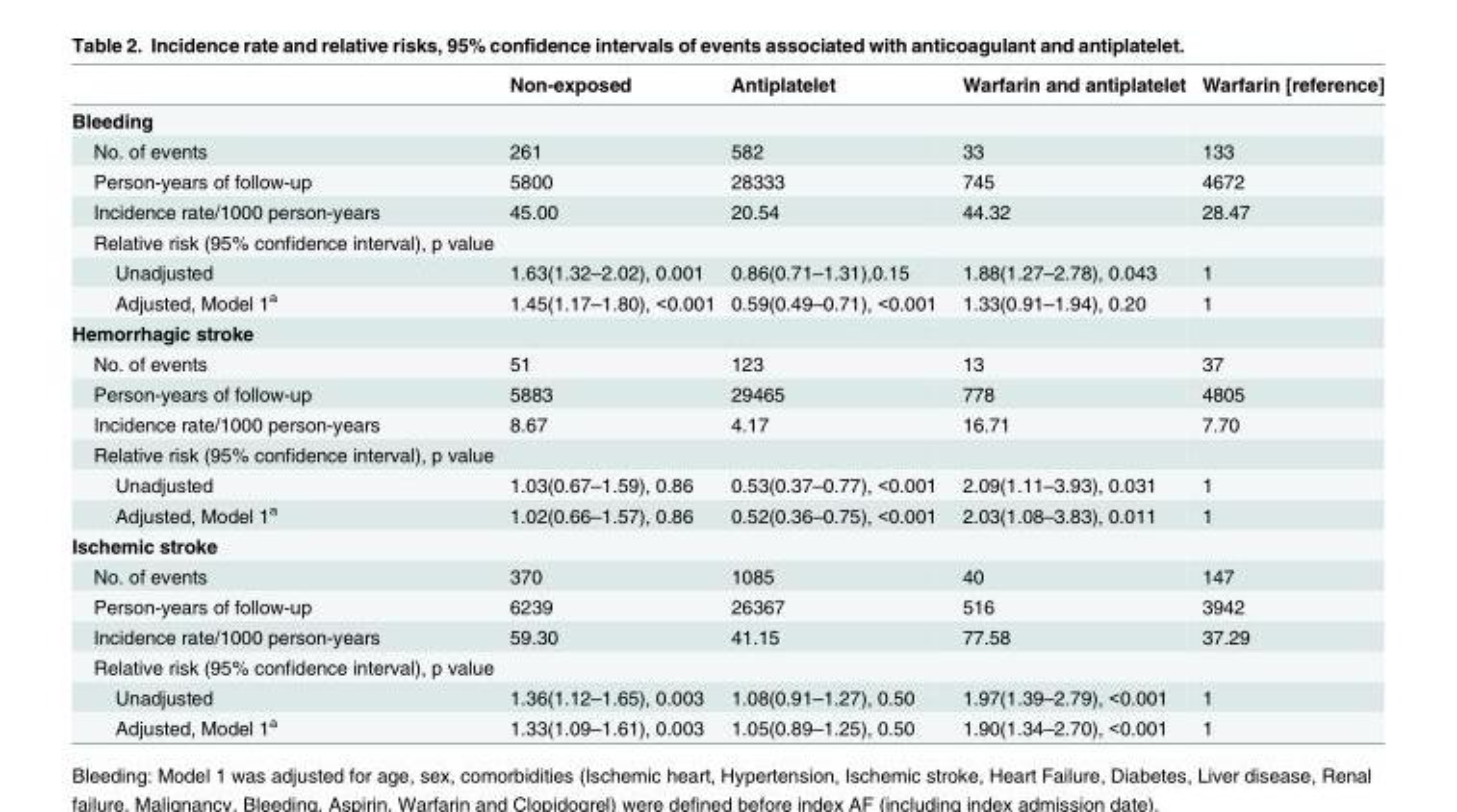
<table><thead><tr><td></td><td>Non-exposed</td><td>Antiplatelet</td><td>Warfarin and antiplatelet</td><td>Warfarin [reference]</td></tr></thead><tbody><tr><td colspan="5">Bleeding</td></tr><tr><td>No. of events</td><td>261</td><td>582</td><td>33</td><td>133</td></tr><tr><td>Person-years of follow-up</td><td>5800</td><td>28333</td><td>745</td><td>4672</td></tr><tr><td>Incidence rate/1000 person-years</td><td>45.00</td><td>20.54</td><td>44.32</td><td>28.47</td></tr><tr><td colspan="5">Relative risk (95% confidence interval), p value</td></tr><tr><td>Unadjusted</td><td>1.63(1.32–2.02), 0.001</td><td>0.86(0.71–1.31),0.15</td><td>1.88(1.27–2.78), 0.043</td><td>1</td></tr><tr><td>Adjusted, Model 1<sup>a</sup></td><td>1.45(1.17–1.80), &lt;0.001</td><td>0.59(0.49–0.71), &lt;0.001</td><td>1.33(0.91–1.94), 0.20</td><td>1</td></tr><tr><td colspan="5">Hemorrhagic stroke</td></tr><tr><td>No. of events</td><td>51</td><td>123</td><td>13</td><td>37</td></tr><tr><td>Person-years of follow-up</td><td>5883</td><td>29465</td><td>778</td><td>4805</td></tr><tr><td>Incidence rate/1000 person-years</td><td>8.67</td><td>4.17</td><td>16.71</td><td>7.70</td></tr><tr><td colspan="5">Relative risk (95% confidence interval), p value</td></tr><tr><td>Unadjusted</td><td>1.03(0.67–1.59), 0.86</td><td>0.53(0.37–0.77), &lt;0.001</td><td>2.09(1.11–3.93), 0.031</td><td>1</td></tr><tr><td>Adjusted, Model 1<sup>a</sup></td><td>1.02(0.66–1.57), 0.86</td><td>0.52(0.36–0.75), &lt;0.001</td><td>2.03(1.08–3.83), 0.011</td><td>1</td></tr><tr><td colspan="5">Ischemic stroke</td></tr><tr><td>No. of events</td><td>370</td><td>1085</td><td>40</td><td>147</td></tr><tr><td>Person-years of follow-up</td><td>6239</td><td>26367</td><td>516</td><td>3942</td></tr><tr><td>Incidence rate/1000 person-years</td><td>59.30</td><td>41.15</td><td>77.58</td><td>37.29</td></tr><tr><td colspan="5">Relative risk (95% confidence interval), p value</td></tr><tr><td>Unadjusted</td><td>1.36(1.12–1.65), 0.003</td><td>1.08(0.91–1.27), 0.50</td><td>1.97(1.39–2.79), &lt;0.001</td><td>1</td></tr><tr><td>Adjusted, Model 1<sup>a</sup></td><td>1.33(1.09–1.61), 0.003</td><td>1.05(0.89–1.25), 0.50</td><td>1.90(1.34–2.70), &lt;0.001</td><td>1</td></tr></tbody></table>